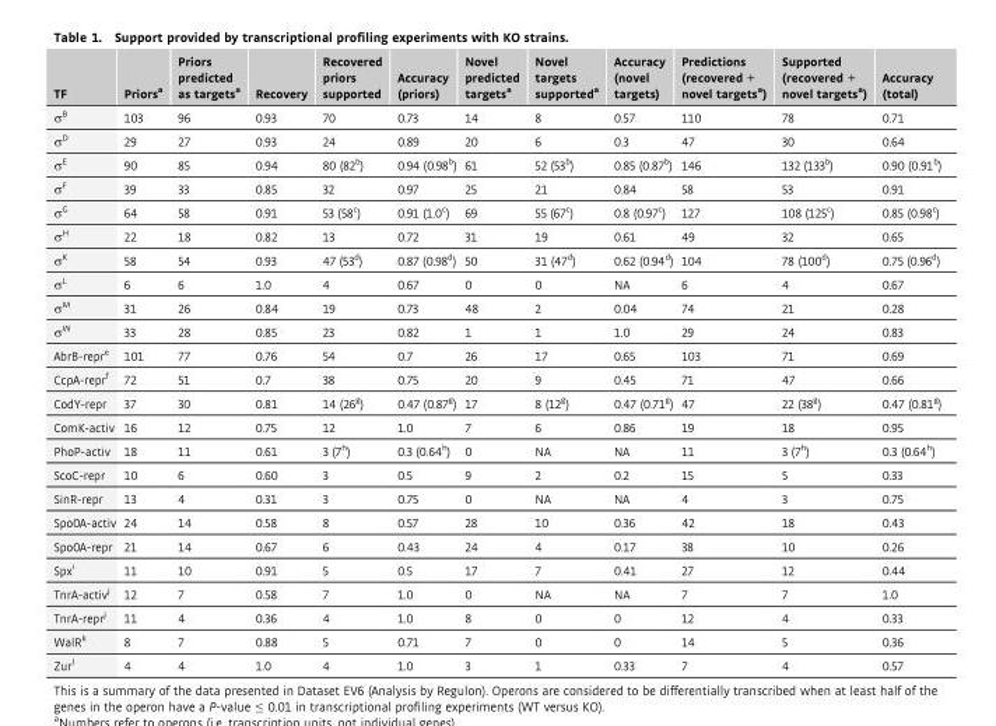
<table><thead><tr><td>TF</td><td>Priors<sup>a</sup></td><td>Priors predicted as targets<sup>a</sup></td><td>Recovery</td><td>Recovered priors supported</td><td>Accuracy (priors)</td><td>Novel predicted targets<sup>a</sup></td><td>Novel targets supported<sup>a</sup></td><td>Accuracy (novel targets)</td><td>Predictions (recovered + novel targets<sup>a</sup>)</td><td>Supported (recovered + novel targets<sup>a</sup>)</td><td>Accuracy (total)</td></tr></thead><tbody><tr><td>σ<sup>B</sup></td><td>103</td><td>96</td><td>0.93</td><td>70</td><td>0.73</td><td>14</td><td>8</td><td>0.57</td><td>110</td><td>78</td><td>0.71</td></tr><tr><td>σ<sup>D</sup></td><td>29</td><td>27</td><td>0.93</td><td>24</td><td>0.89</td><td>20</td><td>6</td><td>0.3</td><td>47</td><td>30</td><td>0.64</td></tr><tr><td>σ<sup>E</sup></td><td>90</td><td>85</td><td>0.94</td><td>80 (82<sup>b</sup>)</td><td>0.94 (0.98<sup>b</sup>)</td><td>61</td><td>52 (53<sup>b</sup>)</td><td>0.85 (0.87<sup>b</sup>)</td><td>146</td><td>132 (133<sup>b</sup>)</td><td>0.90 (0.91<sup>b</sup>)</td></tr><tr><td>σ<sup>F</sup></td><td>39</td><td>33</td><td>0.85</td><td>32</td><td>0.97</td><td>25</td><td>21</td><td>0.84</td><td>58</td><td>53</td><td>0.91</td></tr><tr><td>σ<sup>G</sup></td><td>64</td><td>58</td><td>0.91</td><td>53 (58<sup>c</sup>)</td><td>0.91 (1.0<sup>c</sup>)</td><td>69</td><td>55 (67<sup>c</sup>)</td><td>0.8 (0.97<sup>c</sup>)</td><td>127</td><td>108 (125<sup>c</sup>)</td><td>0.85 (0.98<sup>c</sup>)</td></tr><tr><td>σ<sup>H</sup></td><td>22</td><td>18</td><td>0.82</td><td>13</td><td>0.72</td><td>31</td><td>19</td><td>0.61</td><td>49</td><td>32</td><td>0.65</td></tr><tr><td>σ<sup>K</sup></td><td>58</td><td>54</td><td>0.93</td><td>47 (53<sup>d</sup>)</td><td>0.87 (0.98<sup>d</sup>)</td><td>50</td><td>31 (47<sup>d</sup>)</td><td>0.62 (0.94<sup>d</sup>)</td><td>104</td><td>78 (100<sup>d</sup>)</td><td>0.75 (0.96<sup>d</sup>)</td></tr><tr><td>σ<sup>L</sup></td><td>6</td><td>6</td><td>1.0</td><td>4</td><td>0.67</td><td>0</td><td>0</td><td>NA</td><td>6</td><td>4</td><td>0.67</td></tr><tr><td>σ<sup>M</sup></td><td>31</td><td>26</td><td>0.84</td><td>19</td><td>0.73</td><td>48</td><td>2</td><td>0.04</td><td>74</td><td>21</td><td>0.28</td></tr><tr><td>σ<sup>W</sup></td><td>33</td><td>28</td><td>0.85</td><td>23</td><td>0.82</td><td>1</td><td>1</td><td>1.0</td><td>29</td><td>24</td><td>0.83</td></tr><tr><td>AbrB-repr<sup>e</sup></td><td>101</td><td>77</td><td>0.76</td><td>54</td><td>0.7</td><td>26</td><td>17</td><td>0.65</td><td>103</td><td>71</td><td>0.69</td></tr><tr><td>CcpA-repr<sup>f</sup></td><td>72</td><td>51</td><td>0.7</td><td>38</td><td>0.75</td><td>20</td><td>9</td><td>0.45</td><td>71</td><td>47</td><td>0.66</td></tr><tr><td>CodY-repr</td><td>37</td><td>30</td><td>0.81</td><td>14 (26<sup>g</sup>)</td><td>0.47 (0.87<sup>g</sup>)</td><td>17</td><td>8 (12<sup>g</sup>)</td><td>0.47 (0.71<sup>g</sup>)</td><td>47</td><td>22 (38<sup>g</sup>)</td><td>0.47 (0.81<sup>g</sup>)</td></tr><tr><td>ComK-activ</td><td>16</td><td>12</td><td>0.75</td><td>12</td><td>1.0</td><td>7</td><td>6</td><td>0.86</td><td>19</td><td>18</td><td>0.95</td></tr><tr><td>PhoP-activ</td><td>18</td><td>11</td><td>0.61</td><td>3 (7<sup>h</sup>)</td><td>0.3 (0.64<sup>h</sup>)</td><td>0</td><td>NA</td><td>NA</td><td>11</td><td>3 (7<sup>h</sup>)</td><td>0.3 (0.64<sup>h</sup>)</td></tr><tr><td>ScoC-repr</td><td>10</td><td>6</td><td>0.60</td><td>3</td><td>0.5</td><td>9</td><td>2</td><td>0.2</td><td>15</td><td>5</td><td>0.33</td></tr><tr><td>SinR-repr</td><td>13</td><td>4</td><td>0.31</td><td>3</td><td>0.75</td><td>0</td><td>NA</td><td>NA</td><td>4</td><td>3</td><td>0.75</td></tr><tr><td>Spo0A-activ</td><td>24</td><td>14</td><td>0.58</td><td>8</td><td>0.57</td><td>28</td><td>10</td><td>0.36</td><td>42</td><td>18</td><td>0.43</td></tr><tr><td>Spo0A-repr</td><td>21</td><td>14</td><td>0.67</td><td>6</td><td>0.43</td><td>24</td><td>4</td><td>0.17</td><td>38</td><td>10</td><td>0.26</td></tr><tr><td>Spx<sup>i</sup></td><td>11</td><td>10</td><td>0.91</td><td>5</td><td>0.5</td><td>17</td><td>7</td><td>0.41</td><td>27</td><td>12</td><td>0.44</td></tr><tr><td>TnrA-activ<sup>j</sup></td><td>12</td><td>7</td><td>0.58</td><td>7</td><td>1.0</td><td>0</td><td>NA</td><td>NA</td><td>7</td><td>7</td><td>1.0</td></tr><tr><td>TnrA-repr<sup>j</sup></td><td>11</td><td>4</td><td>0.36</td><td>4</td><td>1.0</td><td>8</td><td>0</td><td>0</td><td>12</td><td>4</td><td>0.33</td></tr><tr><td>WalR<sup>k</sup></td><td>8</td><td>7</td><td>0.88</td><td>5</td><td>0.71</td><td>7</td><td>0</td><td>0</td><td>14</td><td>5</td><td>0.36</td></tr><tr><td>Zur<sup>l</sup></td><td>4</td><td>4</td><td>1.0</td><td>4</td><td>1.0</td><td>3</td><td>1</td><td>0.33</td><td>7</td><td>4</td><td>0.57</td></tr></tbody></table>